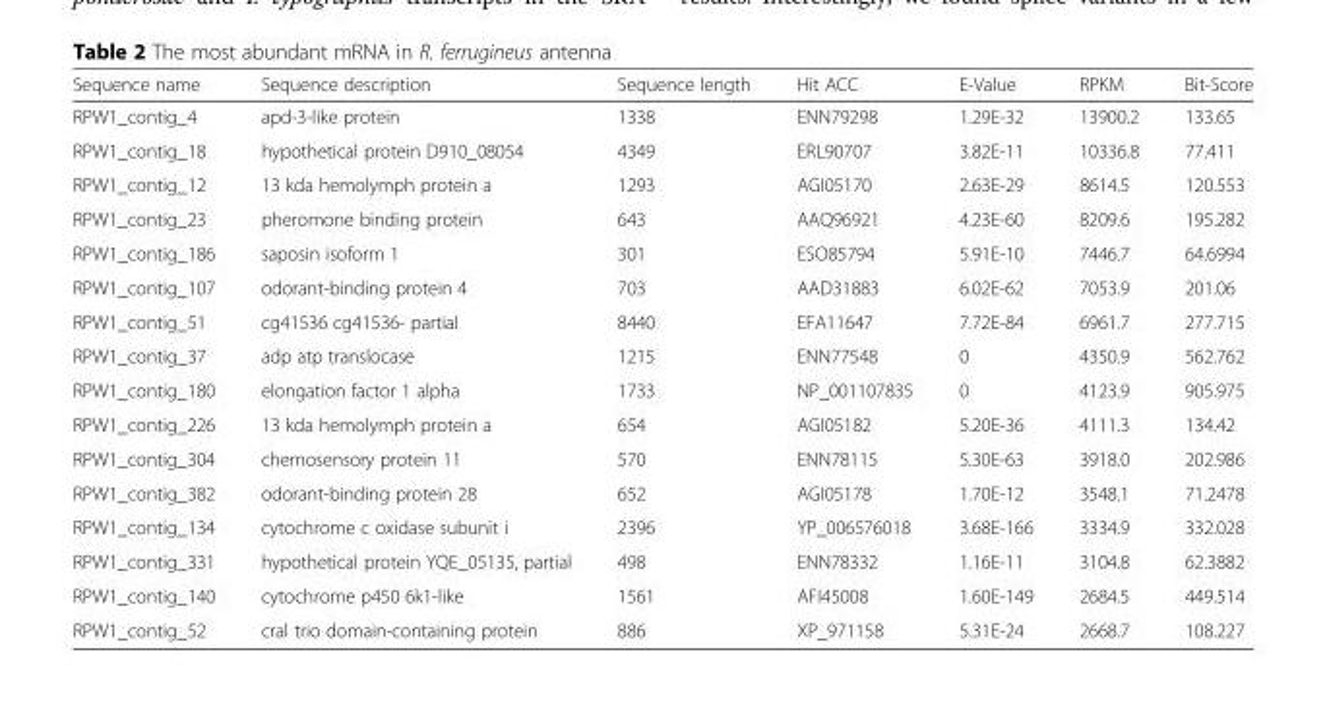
<table><thead><tr><td>Sequence name</td><td>Sequence description</td><td>Sequence length</td><td>Hit ACC</td><td>E-Value</td><td>RPKM</td><td>Bit-Score</td></tr></thead><tbody><tr><td>RPW1_contig_4</td><td>apd-3-like protein</td><td>1338</td><td>ENN79298</td><td>1.29E-32</td><td>13900.2</td><td>133.65</td></tr><tr><td>RPW1_contig_18</td><td>hypothetical protein D910_08054</td><td>4349</td><td>ERL90707</td><td>3.82E-11</td><td>10336.8</td><td>77.411</td></tr><tr><td>RPW1_contig_12</td><td>13 kda hemolymph protein a</td><td>1293</td><td>AGI05170</td><td>2.63E-29</td><td>8614.5</td><td>120.553</td></tr><tr><td>RPW1_contig_23</td><td>pheromone binding protein</td><td>643</td><td>AAQ96921</td><td>4.23E-60</td><td>8209.6</td><td>195.282</td></tr><tr><td>RPW1_contig_186</td><td>saposin isoform 1</td><td>301</td><td>ESO85794</td><td>5.91E-10</td><td>7446.7</td><td>64.6994</td></tr><tr><td>RPW1_contig_107</td><td>odorant-binding protein 4</td><td>703</td><td>AAD31883</td><td>6.02E-62</td><td>7053.9</td><td>201.06</td></tr><tr><td>RPW1_contig_51</td><td>cg41536 cg41536- partial</td><td>8440</td><td>EFA11647</td><td>7.72E-84</td><td>6961.7</td><td>277.715</td></tr><tr><td>RPW1_contig_37</td><td>adp atp translocase</td><td>1215</td><td>ENN77548</td><td>0</td><td>4350.9</td><td>562.762</td></tr><tr><td>RPW1_contig_180</td><td>elongation factor 1 alpha</td><td>1733</td><td>NP_001107835</td><td>0</td><td>4123.9</td><td>905.975</td></tr><tr><td>RPW1_contig_226</td><td>13 kda hemolymph protein a</td><td>654</td><td>AGI05182</td><td>5.20E-36</td><td>4111.3</td><td>134.42</td></tr><tr><td>RPW1_contig_304</td><td>chemosensory protein 11</td><td>570</td><td>ENN78115</td><td>5.30E-63</td><td>3918.0</td><td>202.986</td></tr><tr><td>RPW1_contig_382</td><td>odorant-binding protein 28</td><td>652</td><td>AGI05178</td><td>1.70E-12</td><td>3548.1</td><td>71.2478</td></tr><tr><td>RPW1_contig_134</td><td>cytochrome c oxidase subunit i</td><td>2396</td><td>YP_006576018</td><td>3.68E-166</td><td>3334.9</td><td>332.028</td></tr><tr><td>RPW1_contig_331</td><td>hypothetical protein YQE_05135, partial</td><td>498</td><td>ENN78332</td><td>1.16E-11</td><td>3104.8</td><td>62.3882</td></tr><tr><td>RPW1_contig_140</td><td>cytochrome p450 6k1-like</td><td>1561</td><td>AFI45008</td><td>1.60E-149</td><td>2684.5</td><td>449.514</td></tr><tr><td>RPW1_contig_52</td><td>cral trio domain-containing protein</td><td>886</td><td>XP_971158</td><td>5.31E-24</td><td>2668.7</td><td>108.227</td></tr></tbody></table>